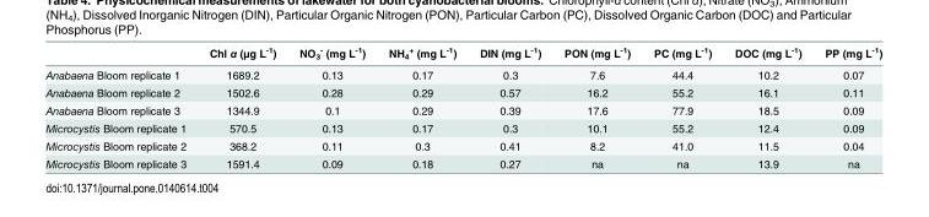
<table><thead><tr><td></td><td>Chl α (μg L<sup>-1</sup>)</td><td>NO<sub>3</sub> <sup>-</sup> (mg L<sup>-1</sup>)</td><td>NH<sub>4</sub> <sup>+</sup> (mg L<sup>-1</sup>)</td><td>DIN (mg L<sup>-1</sup>)</td><td>PON (mg L<sup>-1</sup>)</td><td>PC (mg L<sup>-1</sup>)</td><td>DOC (mg L<sup>-1</sup>)</td><td>PP (mg L<sup>-1</sup>)</td></tr></thead><tbody><tr><td>Anabaena Bloom replicate 1</td><td>1689.2</td><td>0.13</td><td>0.17</td><td>0.3</td><td>7.6</td><td>44.4</td><td>10.2</td><td>0.07</td></tr><tr><td>Anabaena Bloom replicate 2</td><td>1502.6</td><td>0.28</td><td>0.29</td><td>0.57</td><td>16.2</td><td>55.2</td><td>16.1</td><td>0.11</td></tr><tr><td>Anabaena Bloom replicate 3</td><td>1344.9</td><td>0.1</td><td>0.29</td><td>0.39</td><td>17.6</td><td>77.9</td><td>18.5</td><td>0.09</td></tr><tr><td>Microcystis Bloom replicate 1</td><td>570.5</td><td>0.13</td><td>0.17</td><td>0.3</td><td>10.1</td><td>55.2</td><td>12.4</td><td>0.09</td></tr><tr><td>Microcystis Bloom replicate 2</td><td>368.2</td><td>0.11</td><td>0.3</td><td>0.41</td><td>8.2</td><td>41.0</td><td>11.5</td><td>0.04</td></tr><tr><td>Microcystis Bloom replicate 3</td><td>1591.4</td><td>0.09</td><td>0.18</td><td>0.27</td><td>na</td><td>na</td><td>13.9</td><td>na</td></tr></tbody></table>